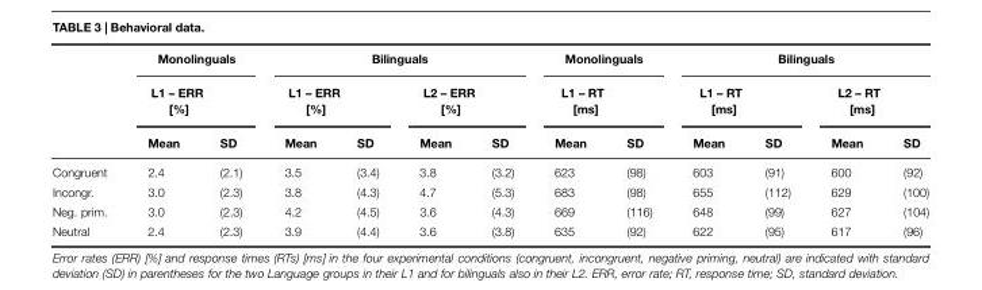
<table><thead><tr><td rowspan="3"></td><td rowspan="2" colspan="2">Monolinguals L1 – ERR [%]</td><td colspan="4">Bilinguals</td><td rowspan="2" colspan="2">Monolinguals L1 – RT [ms]</td><td colspan="4">Bilinguals</td></tr><tr><td colspan="2">L1 – ERR [%]</td><td colspan="2">L2 – ERR [%]</td><td colspan="2">L1 – RT [ms]</td><td colspan="2">L2 – RT [ms]</td></tr><tr><td>Mean</td><td>SD</td><td>Mean</td><td>SD</td><td>Mean</td><td>SD</td><td>Mean</td><td>SD</td><td>Mean</td><td>SD</td><td>Mean</td><td>SD</td></tr></thead><tbody><tr><td>Congruent</td><td>2.4</td><td>(2.1)</td><td>3.5</td><td>(3.4)</td><td>3.8</td><td>(3.2)</td><td>623</td><td>(98)</td><td>603</td><td>(91)</td><td>600</td><td>(92)</td></tr><tr><td>Incongr.</td><td>3.0</td><td>(2.3)</td><td>3.8</td><td>(4.3)</td><td>4.7</td><td>(5.3)</td><td>683</td><td>(98)</td><td>655</td><td>(112)</td><td>629</td><td>(100)</td></tr><tr><td>Neg. prim.</td><td>3.0</td><td>(2.3)</td><td>4.2</td><td>(4.5)</td><td>3.6</td><td>(4.3)</td><td>669</td><td>(116)</td><td>648</td><td>(99)</td><td>627</td><td>(104)</td></tr><tr><td>Neutral</td><td>2.4</td><td>(2.3)</td><td>3.9</td><td>(4.4)</td><td>3.6</td><td>(3.8)</td><td>635</td><td>(92)</td><td>622</td><td>(95)</td><td>617</td><td>(96)</td></tr></tbody></table>